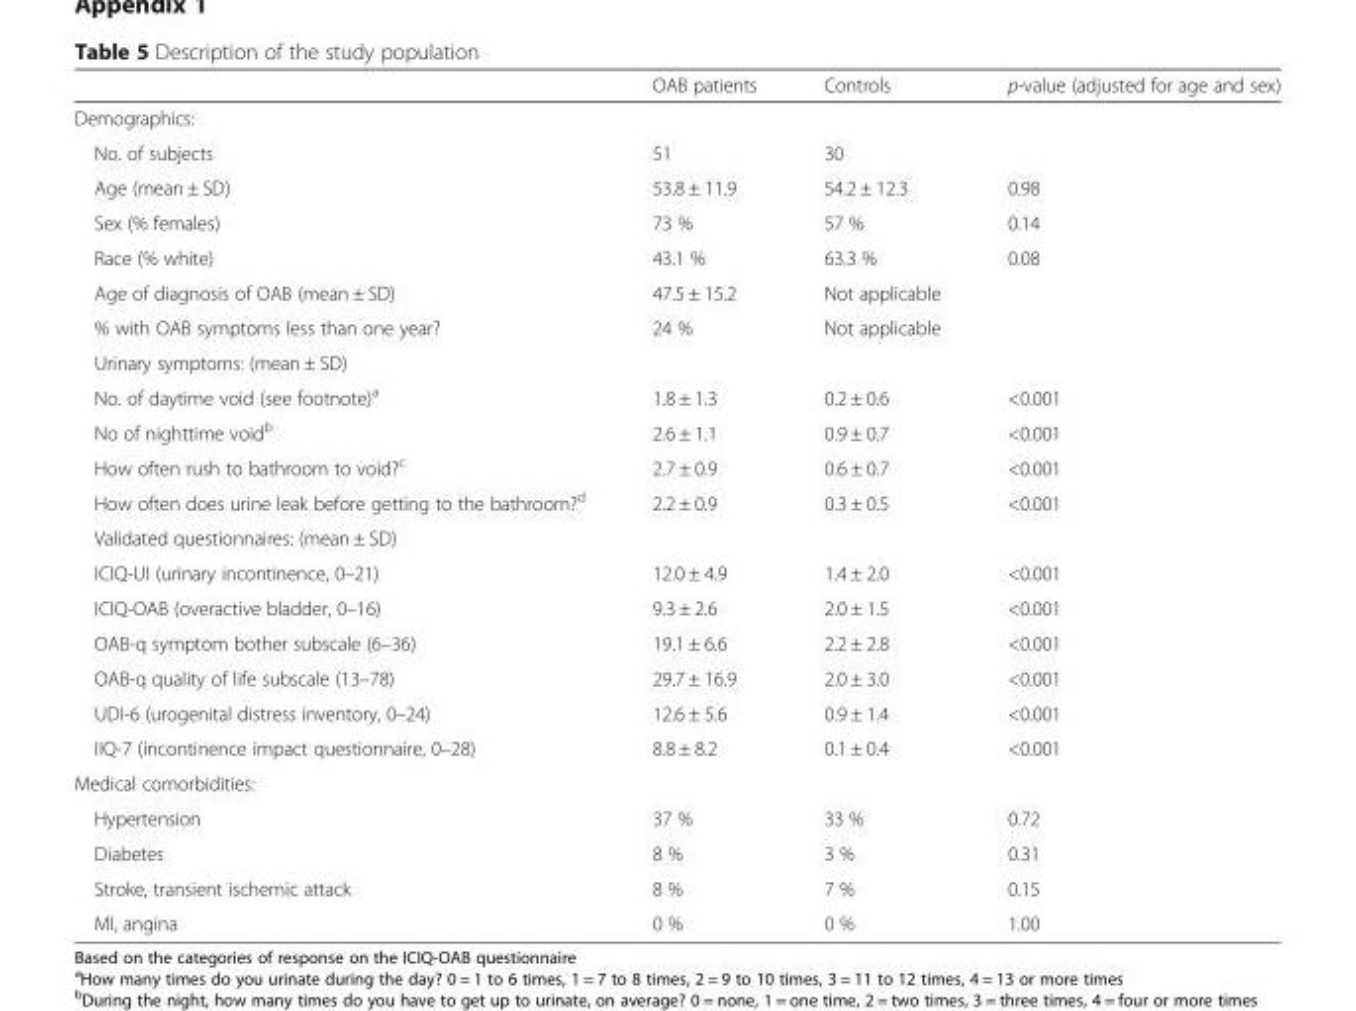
<table><thead><tr><td></td><td>OAB patients</td><td>Controls</td><td>p-value (adjusted for age and sex)</td></tr></thead><tbody><tr><td colspan="4">Demographics:</td></tr><tr><td>No. of subjects</td><td>51</td><td>30</td><td></td></tr><tr><td>Age (mean ± SD)</td><td>53.8 ± 11.9</td><td>54.2 ± 12.3</td><td>0.98</td></tr><tr><td>Sex (% females)</td><td>73 %</td><td>57 %</td><td>0.14</td></tr><tr><td>Race (% white)</td><td>43.1 %</td><td>63.3 %</td><td>0.08</td></tr><tr><td>Age of diagnosis of OAB (mean ± SD)</td><td>47.5 ± 15.2</td><td>Not applicable</td><td></td></tr><tr><td>% with OAB symptoms less than one year?</td><td>24 %</td><td>Not applicable</td><td></td></tr><tr><td colspan="4">Urinary symptoms: (mean ± SD)</td></tr><tr><td>No. of daytime void (see footnote)<sup>a</sup></td><td>1.8 ± 1.3</td><td>0.2 ± 0.6</td><td>&lt;0.001</td></tr><tr><td>No of nighttime void<sup>b</sup></td><td>2.6 ± 1.1</td><td>0.9 ± 0.7</td><td>&lt;0.001</td></tr><tr><td>How often rush to bathroom to void?<sup>c</sup></td><td>2.7 ± 0.9</td><td>0.6 ± 0.7</td><td>&lt;0.001</td></tr><tr><td>How often does urine leak before getting to the bathroom?<sup>d</sup></td><td>2.2 ± 0.9</td><td>0.3 ± 0.5</td><td>&lt;0.001</td></tr><tr><td colspan="4">Validated questionnaires: (mean ± SD)</td></tr><tr><td>ICIQ-UI (urinary incontinence, 0–21)</td><td>12.0 ± 4.9</td><td>1.4 ± 2.0</td><td>&lt;0.001</td></tr><tr><td>ICIQ-OAB (overactive bladder, 0–16)</td><td>9.3 ± 2.6</td><td>2.0 ± 1.5</td><td>&lt;0.001</td></tr><tr><td>OAB-q symptom bother subscale (6–36)</td><td>19.1 ± 6.6</td><td>2.2 ± 2.8</td><td>&lt;0.001</td></tr><tr><td>OAB-q quality of life subscale (13–78)</td><td>29.7 ± 16.9</td><td>2.0 ± 3.0</td><td>&lt;0.001</td></tr><tr><td>UDI-6 (urogenital distress inventory, 0–24)</td><td>12.6 ± 5.6</td><td>0.9 ± 1.4</td><td>&lt;0.001</td></tr><tr><td>IIQ-7 (incontinence impact questionnaire, 0–28)</td><td>8.8 ± 8.2</td><td>0.1 ± 0.4</td><td>&lt;0.001</td></tr><tr><td colspan="4">Medical comorbidities:</td></tr><tr><td>Hypertension</td><td>37 %</td><td>33 %</td><td>0.72</td></tr><tr><td>Diabetes</td><td>8 %</td><td>3 %</td><td>0.31</td></tr><tr><td>Stroke, transient ischemic attack</td><td>8 %</td><td>7 %</td><td>0.15</td></tr><tr><td>MI, angina</td><td>0 %</td><td>0 %</td><td>1.00</td></tr></tbody></table>